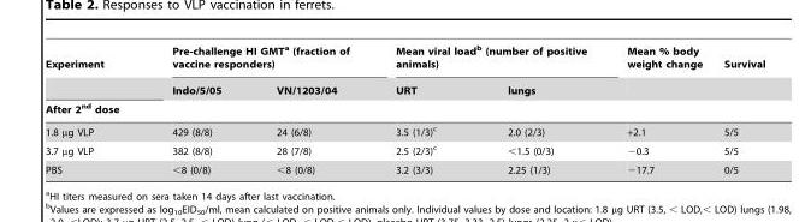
<table><thead><tr><td rowspan="3">Experiment After 2<sup>nd</sup> dose</td><td colspan="2">Pre-challenge HI GMT<sup>a</sup> (fraction of vaccine responders)</td><td colspan="2">Mean viral load<sup>b</sup> (number of positive animals)</td><td rowspan="3">Mean % body weight change</td><td rowspan="3">Survival</td></tr><tr><td rowspan="2">Indo/5/05</td><td rowspan="2">VN/1203/04</td><td rowspan="2">URT</td><td rowspan="2">lungs</td></tr><tr></tr></thead><tbody><tr><td>1.8 µg VLP</td><td>429 (8/8)</td><td>24 (6/8)</td><td>3.5 (1/3)<sup>c</sup></td><td>2.0 (2/3)</td><td>+2.1</td><td>5/5</td></tr><tr><td>3.7 µg VLP</td><td>382 (8/8)</td><td>28 (7/8)</td><td>2.5 (2/3)<sup>c</sup></td><td>&lt;1.5 (0/3)</td><td>−0.3</td><td>5/5</td></tr><tr><td>PBS</td><td>&lt;8 (0/8)</td><td>&lt;8 (0/8)</td><td>3.2 (3/3)</td><td>2.25 (1/3)</td><td>−17.7</td><td>0/5</td></tr></tbody></table>